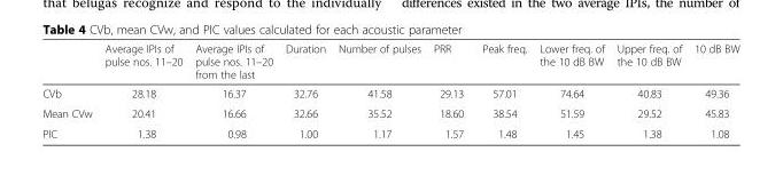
<table><thead><tr><td></td><td>Average IPIs of pulse nos. 11–20</td><td>Average IPIs of pulse nos. 11–20 from the last</td><td>Duration</td><td>Number of pulses</td><td>PRR</td><td>Peak freq.</td><td>Lower freq. of the 10 dB BW</td><td>Upper freq. of the 10 dB BW</td><td>10 dB BW</td></tr></thead><tbody><tr><td>CVb</td><td>28.18</td><td>16.37</td><td>32.76</td><td>41.58</td><td>29.13</td><td>57.01</td><td>74.64</td><td>40.83</td><td>49.36</td></tr><tr><td>Mean CVw</td><td>20.41</td><td>16.66</td><td>32.66</td><td>35.52</td><td>18.60</td><td>38.54</td><td>51.59</td><td>29.52</td><td>45.83</td></tr><tr><td>PIC</td><td>1.38</td><td>0.98</td><td>1.00</td><td>1.17</td><td>1.57</td><td>1.48</td><td>1.45</td><td>1.38</td><td>1.08</td></tr></tbody></table>